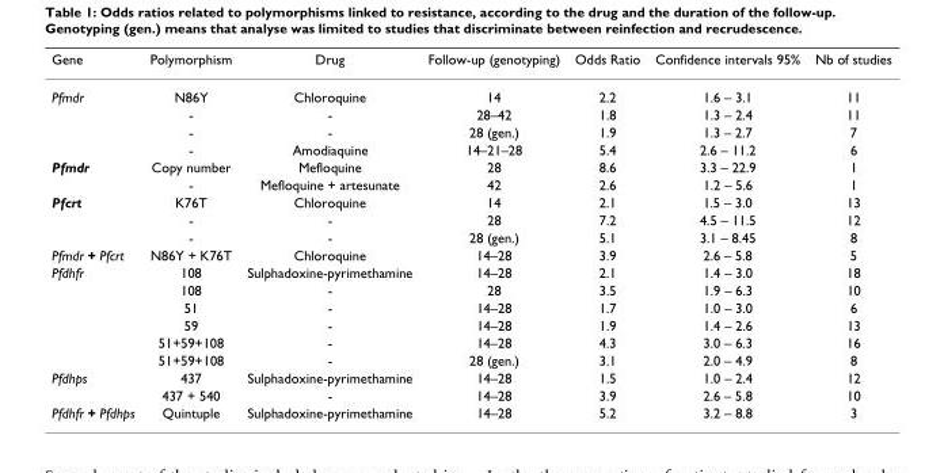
<table><thead><tr><td>Gene</td><td>Polymorphism</td><td>Drug</td><td>Follow-up (genotyping)</td><td>Odds Ratio</td><td>Confidence intervals 95%</td><td>Nb of studies</td></tr></thead><tbody><tr><td rowspan="4">Pfmdr</td><td>N86Y</td><td>Chloroquine</td><td>14</td><td>2.2</td><td>1.6 – 3.1</td><td>11</td></tr><tr><td>-</td><td>-</td><td>28–42</td><td>1.8</td><td>1.3 – 2.4</td><td>11</td></tr><tr><td>-</td><td>-</td><td>28 (gen.)</td><td>1.9</td><td>1.3 – 2.7</td><td>7</td></tr><tr><td>-</td><td>Amodiaquine</td><td>14–21–28</td><td>5.4</td><td>2.6 – 11.2</td><td>6</td></tr><tr><td rowspan="2">Pfmdr</td><td>Copy number</td><td>Mefloquine</td><td>28</td><td>8.6</td><td>3.3 – 22.9</td><td>1</td></tr><tr><td>-</td><td>Mefloquine + artesunate</td><td>42</td><td>2.6</td><td>1.2 – 5.6</td><td>1</td></tr><tr><td rowspan="3">Pfcrt</td><td>K76T</td><td>Chloroquine</td><td>14</td><td>2.1</td><td>1.5 – 3.0</td><td>13</td></tr><tr><td>-</td><td>-</td><td>28</td><td>7.2</td><td>4.5 – 11.5</td><td>12</td></tr><tr><td>-</td><td>-</td><td>28 (gen.)</td><td>5.1</td><td>3.1 – 8.45</td><td>8</td></tr><tr><td>Pfmdr + Pfcrt</td><td>N86Y + K76T</td><td>Chloroquine</td><td>14–28</td><td>3.9</td><td>2.6 – 5.8</td><td>5</td></tr><tr><td rowspan="6">Pfdhfr</td><td>108</td><td>Sulphadoxine-pyrimethamine</td><td>14–28</td><td>2.1</td><td>1.4 – 3.0</td><td>18</td></tr><tr><td>108</td><td>-</td><td>28</td><td>3.5</td><td>1.9 – 6.3</td><td>10</td></tr><tr><td>51</td><td>-</td><td>14–28</td><td>1.7</td><td>1.0 – 3.0</td><td>6</td></tr><tr><td>59</td><td>-</td><td>14–28</td><td>1.9</td><td>1.4 – 2.6</td><td>13</td></tr><tr><td>51+59+108</td><td>-</td><td>14–28</td><td>4.3</td><td>3.0 – 6.3</td><td>16</td></tr><tr><td>51+59+108</td><td>-</td><td>28 (gen.)</td><td>3.1</td><td>2.0 – 4.9</td><td>8</td></tr><tr><td rowspan="2">Pfdhps</td><td>437</td><td>Sulphadoxine-pyrimethamine</td><td>14–28</td><td>1.5</td><td>1.0 – 2.4</td><td>12</td></tr><tr><td>437 + 540</td><td>-</td><td>14–28</td><td>3.9</td><td>2.6 – 5.8</td><td>10</td></tr><tr><td>Pfdhfr + Pfdhps</td><td>Quintuple</td><td>Sulphadoxine-pyrimethamine</td><td>14–28</td><td>5.2</td><td>3.2 – 8.8</td><td>3</td></tr></tbody></table>